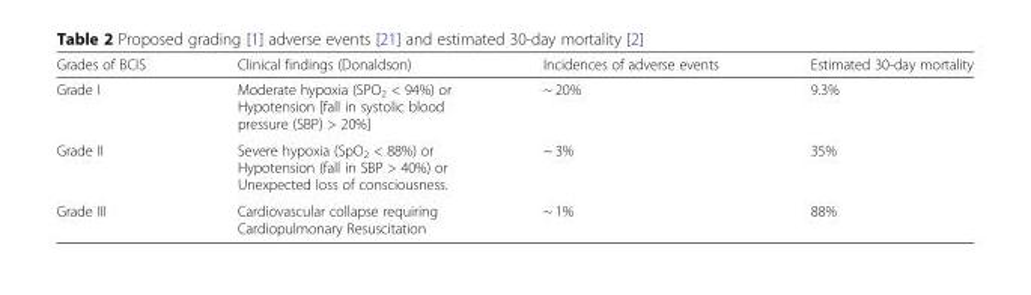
<table><thead><tr><td>Grades of BCIS</td><td>Clinical findings (Donaldson)</td><td>Incidences of adverse events</td><td>Estimated 30-day mortality</td></tr></thead><tbody><tr><td>Grade I</td><td>Moderate hypoxia (SPO<sub>2</sub> &lt; 94%) or Hypotension [fall in systolic blood pressure (SBP) &gt; 20%]</td><td>~ 20%</td><td>9.3%</td></tr><tr><td>Grade II</td><td>Severe hypoxia (SpO<sub>2</sub> &lt; 88%) or Hypotension (fall in SBP &gt; 40%) or Unexpected loss of consciousness.</td><td>~ 3%</td><td>35%</td></tr><tr><td>Grade III</td><td>Cardiovascular collapse requiring Cardiopulmonary Resuscitation</td><td>~ 1%</td><td>88%</td></tr></tbody></table>